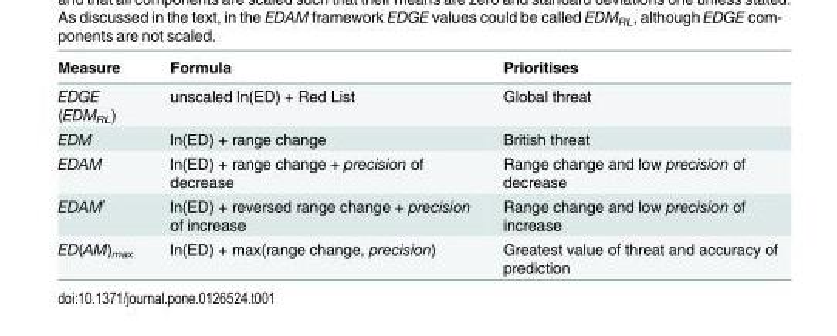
<table><thead><tr><td>Measure</td><td>Formula</td><td>Prioritises</td></tr></thead><tbody><tr><td>EDGE (EDM<sub>RL</sub>)</td><td>unscaled ln(ED) + Red List</td><td>Global threat</td></tr><tr><td>EDM</td><td>ln(ED) + range change</td><td>British threat</td></tr><tr><td>EDAM</td><td>ln(ED) + range change + precision of decrease</td><td>Range change and low precision of decrease</td></tr><tr><td>EDAM′</td><td>ln(ED) + reversed range change + precision of increase</td><td>Range change and low precision of increase</td></tr><tr><td>ED(AM)<sub>max</sub></td><td>ln(ED) + max(range change, precision)</td><td>Greatest value of threat and accuracy of prediction</td></tr></tbody></table>